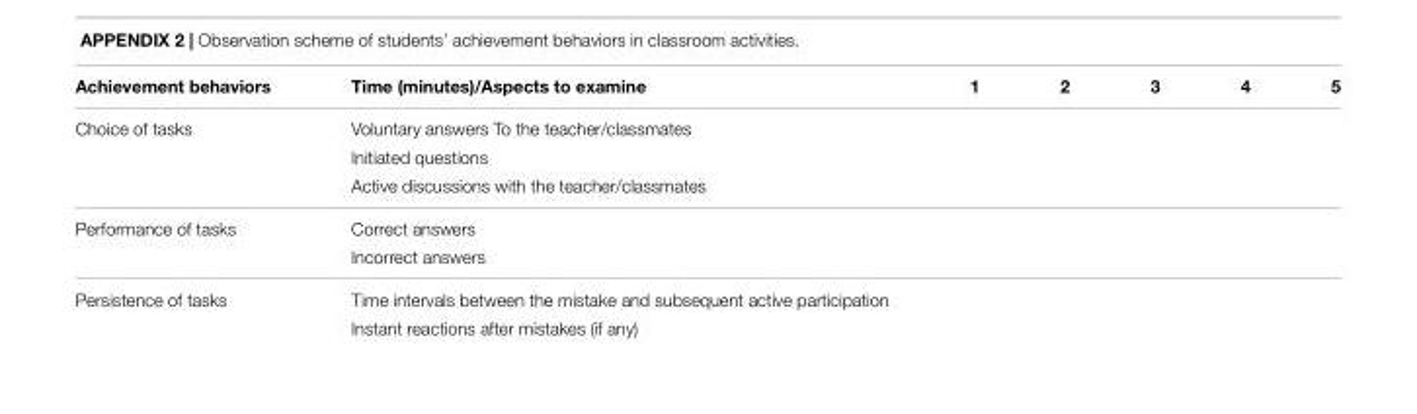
<table><thead><tr><td>Achievement behaviors</td><td>Time (minutes)/Aspects to examine</td><td>1</td><td>2</td><td>3</td><td>4</td><td>5</td></tr></thead><tbody><tr><td rowspan="3">Choice of tasks</td><td>Voluntary answers To the teacher/classmates</td><td></td><td></td><td></td><td></td><td></td></tr><tr><td>Initiated questions</td><td></td><td></td><td></td><td></td><td></td></tr><tr><td>Active discussions with the teacher/classmates</td><td></td><td></td><td></td><td></td><td></td></tr><tr><td rowspan="2">Performance of tasks</td><td>Correct answers</td><td></td><td></td><td></td><td></td><td></td></tr><tr><td>Incorrect answers</td><td></td><td></td><td></td><td></td><td></td></tr><tr><td rowspan="2">Persistence of tasks</td><td>Time intervals between the mistake and subsequent active participation</td><td></td><td></td><td></td><td></td><td></td></tr><tr><td>Instant reactions after mistakes (if any)</td><td></td><td></td><td></td><td></td><td></td></tr></tbody></table>